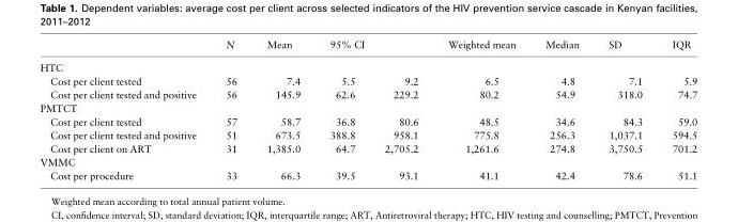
<table><thead><tr><td></td><td>N</td><td>Mean</td><td colspan="2">95% CI</td><td>Weighted mean</td><td>Median</td><td>SD</td><td>IQR</td></tr><tr><td colspan="9">HTC</td></tr><tr><td>Cost per client tested</td><td>56</td><td>7.4</td><td>5.5</td><td>9.2</td><td>6.5</td><td>4.8</td><td>7.1</td><td>5.9</td></tr></thead><tbody><tr><td>Cost per client tested and positive</td><td>56</td><td>145.9</td><td>62.6</td><td>229.2</td><td>80.2</td><td>54.9</td><td>318.0</td><td>74.7</td></tr><tr><td colspan="9">PMTCT</td></tr><tr><td>Cost per client tested</td><td>57</td><td>58.7</td><td>36.8</td><td>80.6</td><td>48.5</td><td>34.6</td><td>84.3</td><td>59.0</td></tr><tr><td>Cost per client tested and positive</td><td>51</td><td>673.5</td><td>388.8</td><td>958.1</td><td>775.8</td><td>256.3</td><td>1,037.1</td><td>594.5</td></tr><tr><td>Cost per client on ART</td><td>31</td><td>1,385.0</td><td>64.7</td><td>2,705.2</td><td>1,261.6</td><td>274.8</td><td>3,750.5</td><td>701.2</td></tr><tr><td colspan="9">VMMC</td></tr><tr><td>Cost per procedure</td><td>33</td><td>66.3</td><td>39.5</td><td>93.1</td><td>41.1</td><td>42.4</td><td>78.6</td><td>51.1</td></tr></tbody></table>